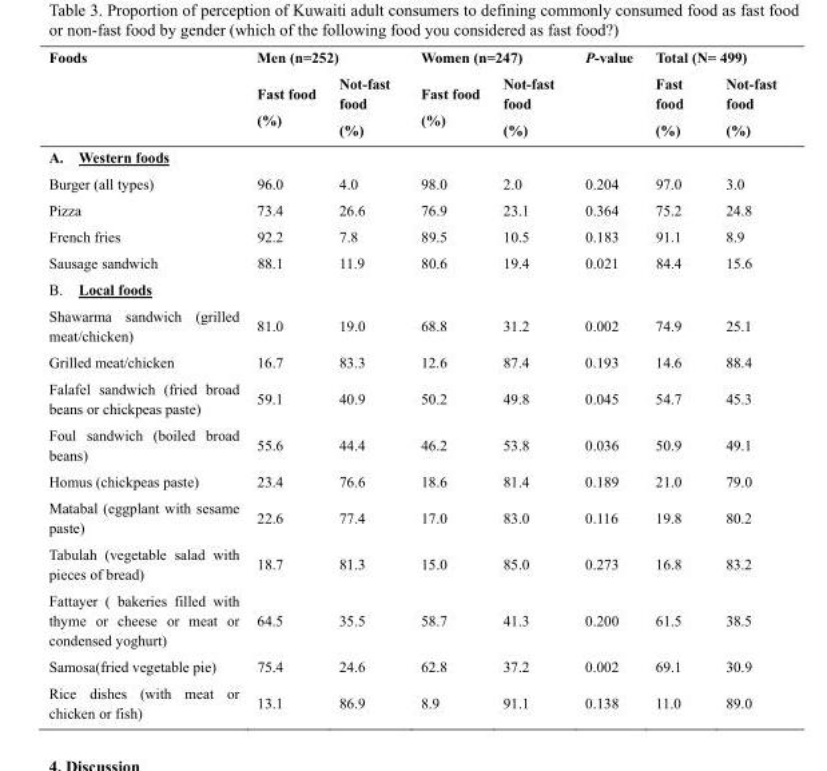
<table><thead><tr><td rowspan="2">Foods</td><td colspan="2">Men (n=252)</td><td colspan="2">Women (n=247)</td><td rowspan="2">P-value</td><td colspan="2">Total (N= 499)</td></tr><tr><td>Fast food (%)</td><td>Not-fast food (%)</td><td>Fast food (%)</td><td>Not-fast food (%)</td><td>Fast food (%)</td><td>Not-fast food (%)</td></tr></thead><tbody><tr><td colspan="8">A. Western foods</td></tr><tr><td>Burger (all types)</td><td>96.0</td><td>4.0</td><td>98.0</td><td>2.0</td><td>0.204</td><td>97.0</td><td>3.0</td></tr><tr><td>Pizza</td><td>73.4</td><td>26.6</td><td>76.9</td><td>23.1</td><td>0.364</td><td>75.2</td><td>24.8</td></tr><tr><td>French fries</td><td>92.2</td><td>7.8</td><td>89.5</td><td>10.5</td><td>0.183</td><td>91.1</td><td>8.9</td></tr><tr><td>Sausage sandwich</td><td>88.1</td><td>11.9</td><td>80.6</td><td>19.4</td><td>0.021</td><td>84.4</td><td>15.6</td></tr><tr><td colspan="8">B. Local foods</td></tr><tr><td>Shawarma sandwich (grilled meat/chicken)</td><td>81.0</td><td>19.0</td><td>68.8</td><td>31.2</td><td>0.002</td><td>74.9</td><td>25.1</td></tr><tr><td>Grilled meat/chicken</td><td>16.7</td><td>83.3</td><td>12.6</td><td>87.4</td><td>0.193</td><td>14.6</td><td>88.4</td></tr><tr><td>Falafel sandwich (fried broad beans or chickpeas paste)</td><td>59.1</td><td>40.9</td><td>50.2</td><td>49.8</td><td>0.045</td><td>54.7</td><td>45.3</td></tr><tr><td>Foul sandwich (boiled broad beans)</td><td>55.6</td><td>44.4</td><td>46.2</td><td>53.8</td><td>0.036</td><td>50.9</td><td>49.1</td></tr><tr><td>Homus (chickpeas paste)</td><td>23.4</td><td>76.6</td><td>18.6</td><td>81.4</td><td>0.189</td><td>21.0</td><td>79.0</td></tr><tr><td>Matabal (eggplant with sesame paste)</td><td>22.6</td><td>77.4</td><td>17.0</td><td>83.0</td><td>0.116</td><td>19.8</td><td>80.2</td></tr><tr><td>Tabulah (vegetable salad with pieces of bread)</td><td>18.7</td><td>81.3</td><td>15.0</td><td>85.0</td><td>0.273</td><td>16.8</td><td>83.2</td></tr><tr><td>Fattayer ( bakeries filled with thyme or cheese or meat or condensed yoghurt)</td><td>64.5</td><td>35.5</td><td>58.7</td><td>41.3</td><td>0.200</td><td>61.5</td><td>38.5</td></tr><tr><td>Samosa(fried vegetable pie)</td><td>75.4</td><td>24.6</td><td>62.8</td><td>37.2</td><td>0.002</td><td>69.1</td><td>30.9</td></tr><tr><td>Rice dishes (with meat or chicken or fish)</td><td>13.1</td><td>86.9</td><td>8.9</td><td>91.1</td><td>0.138</td><td>11.0</td><td>89.0</td></tr></tbody></table>